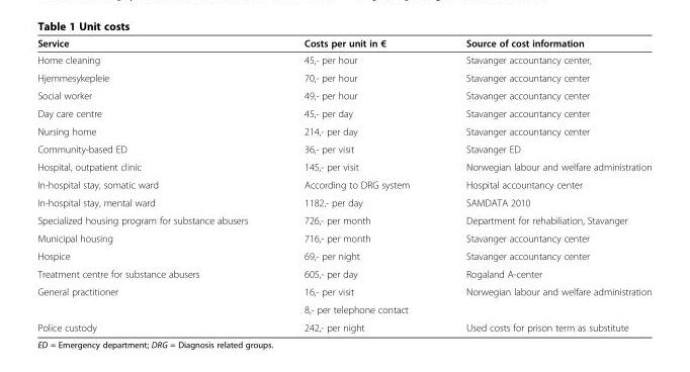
<table><thead><tr><td>Service</td><td>Costs per unit in €</td><td>Source of cost information</td></tr></thead><tbody><tr><td>Home cleaning</td><td>45,- per hour</td><td>Stavanger accountancy center,</td></tr><tr><td>Hjemmesykepleie</td><td>70,- per hour</td><td>Stavanger accountancy center</td></tr><tr><td>Social worker</td><td>49,- per hour</td><td>Stavanger accountancy center</td></tr><tr><td>Day care centre</td><td>45,- per day</td><td>Stavanger accountancy center</td></tr><tr><td>Nursing home</td><td>214,- per day</td><td>Stavanger accountancy center</td></tr><tr><td>Community-based ED</td><td>36,- per visit</td><td>Stavanger ED</td></tr><tr><td>Hospital, outpatient clinic</td><td>145,- per visit</td><td>Norwegian labour and welfare administration</td></tr><tr><td>In-hospital stay, somatic ward</td><td>According to DRG system</td><td>Hospital accountancy center</td></tr><tr><td>In-hospital stay, mental ward</td><td>1182,- per day</td><td>SAMDATA 2010</td></tr><tr><td>Specialized housing program for substance abusers</td><td>726,- per month</td><td>Department for rehabiliation, Stavanger</td></tr><tr><td>Municipal housing</td><td>716,- per month</td><td>Stavanger accountancy center</td></tr><tr><td>Hospice</td><td>69,- per night</td><td>Stavanger accountancy center</td></tr><tr><td>Treatment centre for substance abusers</td><td>605,- per day</td><td>Rogaland A-center</td></tr><tr><td rowspan="2">General practitioner</td><td>16,- per visit</td><td rowspan="2">Norwegian labour and welfare administration</td></tr><tr><td>8,- per telephone contact</td></tr><tr><td>Police custody</td><td>242,- per night</td><td>Used costs for prison term as substitute</td></tr></tbody></table>